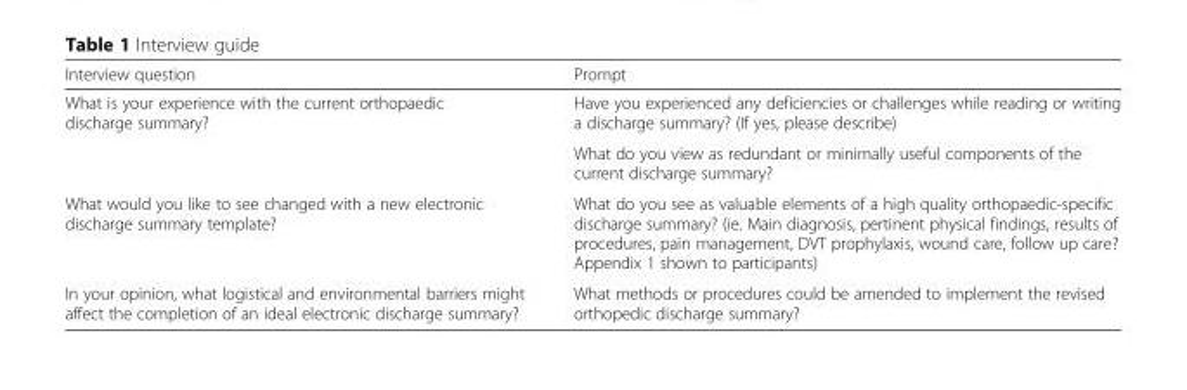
<table><thead><tr><td>Interview question</td><td>Prompt</td></tr></thead><tbody><tr><td rowspan="2">What is your experience with the current orthopaedic discharge summary?</td><td>Have you experienced any deficiencies or challenges while reading or writing a discharge summary? (If yes, please describe)</td></tr><tr><td>What do you view as redundant or minimally useful components of the current discharge summary?</td></tr><tr><td>What would you like to see changed with a new electronic discharge summary template?</td><td>What do you see as valuable elements of a high quality orthopaedic-specific discharge summary? (ie. Main diagnosis, pertinent physical findings, results of procedures, pain management, DVT prophylaxis, wound care, follow up care? Appendix 1 shown to participants)</td></tr><tr><td>In your opinion, what logistical and environmental barriers might affect the completion of an ideal electronic discharge summary?</td><td>What methods or procedures could be amended to implement the revised orthopedic discharge summary?</td></tr></tbody></table>